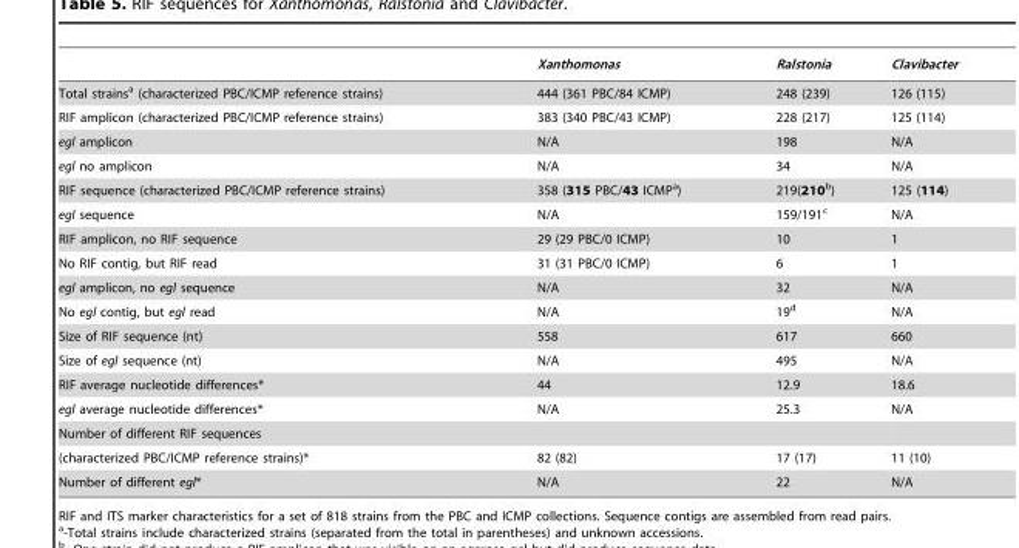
<table><thead><tr><td></td><td>Xanthomonas</td><td>Ralstonia</td><td>Clavibacter</td></tr></thead><tbody><tr><td>Total strains<sup>a</sup> (characterized PBC/ICMP reference strains)</td><td>444 (361 PBC/84 ICMP)</td><td>248 (239)</td><td>126 (115)</td></tr><tr><td>RIF amplicon (characterized PBC/ICMP reference strains)</td><td>383 (340 PBC/43 ICMP)</td><td>228 (217)</td><td>125 (114)</td></tr><tr><td>egl amplicon</td><td>N/A</td><td>198</td><td>N/A</td></tr><tr><td>egl no amplicon</td><td>N/A</td><td>34</td><td>N/A</td></tr><tr><td>RIF sequence (characterized PBC/ICMP reference strains)</td><td>358 (315 PBC/43 ICMP<sup>a</sup>)</td><td>219(210b)</td><td>125 (114)</td></tr><tr><td>egl sequence</td><td>N/A</td><td>159/191<sup>c</sup></td><td>N/A</td></tr><tr><td>RIF amplicon, no RIF sequence</td><td>29 (29 PBC/0 ICMP)</td><td>10</td><td>1</td></tr><tr><td>No RIF contig, but RIF read</td><td>31 (31 PBC/0 ICMP)</td><td>6</td><td>1</td></tr><tr><td>egl amplicon, no egl sequence</td><td>N/A</td><td>32</td><td>N/A</td></tr><tr><td>No egl contig, but egl read</td><td>N/A</td><td>19<sup>d</sup></td><td>N/A</td></tr><tr><td>Size of RIF sequence (nt)</td><td>558</td><td>617</td><td>660</td></tr><tr><td>Size of egl sequence (nt)</td><td>N/A</td><td>495</td><td>N/A</td></tr><tr><td>RIF average nucleotide differences*</td><td>44</td><td>12.9</td><td>18.6</td></tr><tr><td>egl average nucleotide differences*</td><td>N/A</td><td>25.3</td><td>N/A</td></tr><tr><td colspan="4">Number of different RIF sequences</td></tr><tr><td>(characterized PBC/ICMP reference strains)*</td><td>82 (82)</td><td>17 (17)</td><td>11 (10)</td></tr><tr><td>Number of different egl*</td><td>N/A</td><td>22</td><td>N/A</td></tr></tbody></table>